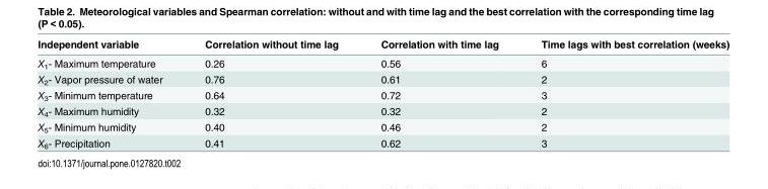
<table><thead><tr><td>Independent variable</td><td>Correlation without time lag</td><td>Correlation with time lag</td><td>Time lags with best correlation (weeks)</td></tr></thead><tbody><tr><td>X<sub>1</sub>- Maximum temperature</td><td>0.26</td><td>0.56</td><td>6</td></tr><tr><td>X<sub>2</sub>- Vapor pressure of water</td><td>0.76</td><td>0.61</td><td>2</td></tr><tr><td>X<sub>3</sub>- Minimum temperature</td><td>0.64</td><td>0.72</td><td>3</td></tr><tr><td>X<sub>4</sub>- Maximum humidity</td><td>0.32</td><td>0.32</td><td>2</td></tr><tr><td>X<sub>5</sub>- Minimum humidity</td><td>0.40</td><td>0.46</td><td>2</td></tr><tr><td>X<sub>6</sub>- Precipitation</td><td>0.41</td><td>0.62</td><td>3</td></tr></tbody></table>